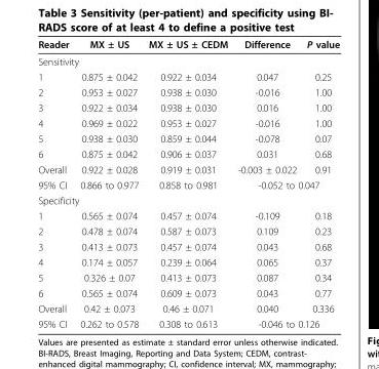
<table><thead><tr><td>Reader</td><td>MX ± US</td><td>MX ± US ± CEDM</td><td>Difference</td><td>P value</td></tr></thead><tbody><tr><td colspan="5">Sensitivity</td></tr><tr><td>1</td><td>0.875 ± 0.042</td><td>0.922 ± 0.034</td><td>0.047</td><td>0.25</td></tr><tr><td>2</td><td>0.953 ± 0.027</td><td>0.938 ± 0.030</td><td>-0.016</td><td>1.00</td></tr><tr><td>3</td><td>0.922 ± 0.034</td><td>0.938 ± 0.030</td><td>0.016</td><td>1.00</td></tr><tr><td>4</td><td>0.969 ± 0.022</td><td>0.953 ± 0.027</td><td>-0.016</td><td>1.00</td></tr><tr><td>5</td><td>0.938 ± 0.030</td><td>0.859 ± 0.044</td><td>-0.078</td><td>0.07</td></tr><tr><td>6</td><td>0.875 ± 0.042</td><td>0.906 ± 0.037</td><td>0.031</td><td>0.68</td></tr><tr><td>Overall</td><td>0.922 ± 0.028</td><td>0.919 ± 0.031</td><td>-0.003 ± 0.022</td><td>0.91</td></tr><tr><td>95% CI</td><td>0.866 to 0.977</td><td>0.858 to 0.981</td><td colspan="2">-0.052 to 0.047</td></tr><tr><td colspan="5">Specificity</td></tr><tr><td>1</td><td>0.565 ± 0.074</td><td>0.457 ± 0.074</td><td>-0.109</td><td>0.18</td></tr><tr><td>2</td><td>0.478 ± 0.074</td><td>0.587 ± 0.073</td><td>0.109</td><td>0.23</td></tr><tr><td>3</td><td>0.413 ± 0.073</td><td>0.457 ± 0.074</td><td>0.043</td><td>0.68</td></tr><tr><td>4</td><td>0.174 ± 0.057</td><td>0.239 ± 0.064</td><td>0.065</td><td>0.37</td></tr><tr><td>5</td><td>0.326 ± 0.07</td><td>0.413 ± 0.073</td><td>0.087</td><td>0.34</td></tr><tr><td>6</td><td>0.565 ± 0.074</td><td>0.609 ± 0.073</td><td>0.043</td><td>0.77</td></tr><tr><td>Overall</td><td>0.42 ± 0.073</td><td>0.46 ± 0.071</td><td>0.040</td><td>0.336</td></tr><tr><td>95% CI</td><td>0.262 to 0.578</td><td>0.308 to 0.613</td><td colspan="2">-0.046 to 0.126</td></tr></tbody></table>